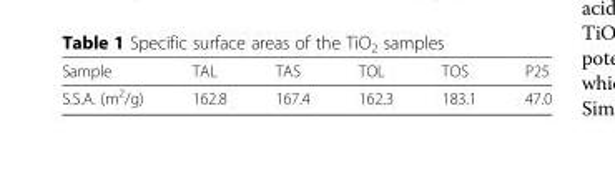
<table><thead><tr><td>Sample</td><td>TAL</td><td>TAS</td><td>TOL</td><td>TOS</td><td>P25</td></tr></thead><tbody><tr><td>S.S.A. (m<sup>2</sup>/g)</td><td>162.8</td><td>167.4</td><td>162.3</td><td>183.1</td><td>47.0</td></tr></tbody></table>